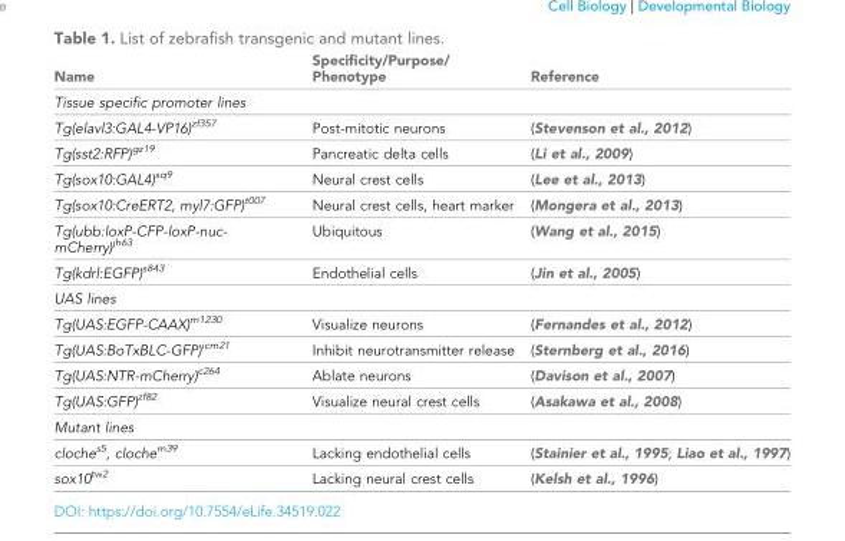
<table><thead><tr><td>Name</td><td>Specificity/Purpose/ Phenotype</td><td>Reference</td></tr></thead><tbody><tr><td colspan="3">Tissue specific promoter lines</td></tr><tr><td>Tg(elavl3:GAL4-VP16)<sup>zf357</sup></td><td>Post-mitotic neurons</td><td>(Stevenson et al., 2012)</td></tr><tr><td>Tg(sst2:RFP)<sup>gz19</sup></td><td>Pancreatic delta cells</td><td>(Li et al., 2009)</td></tr><tr><td>Tg(sox10:GAL4)<sup>sq9</sup></td><td>Neural crest cells</td><td>(Lee et al., 2013)</td></tr><tr><td>Tg(sox10:CreERT2, myl7:GFP)<sup>t007</sup></td><td>Neural crest cells, heart marker</td><td>(Mongera et al., 2013)</td></tr><tr><td>Tg(ubb:loxP-CFP-loxP-nuc- mCherry)<sup>jh63</sup></td><td>Ubiquitous</td><td>(Wang et al., 2015)</td></tr><tr><td>Tg(kdrl:EGFP)<sup>s843</sup></td><td>Endothelial cells</td><td>(Jin et al., 2005)</td></tr><tr><td colspan="3">UAS lines</td></tr><tr><td>Tg(UAS:EGFP-CAAX)<sup>m1230</sup></td><td>Visualize neurons</td><td>(Fernandes et al., 2012)</td></tr><tr><td>Tg(UAS:BoTxBLC-GFP)<sup>icm21</sup></td><td>Inhibit neurotransmitter release</td><td>(Sternberg et al., 2016)</td></tr><tr><td>Tg(UAS:NTR-mCherry)<sup>c264</sup></td><td>Ablate neurons</td><td>(Davison et al., 2007)</td></tr><tr><td>Tg(UAS:GFP)<sup>zf82</sup></td><td>Visualize neural crest cells</td><td>(Asakawa et al., 2008)</td></tr><tr><td colspan="3">Mutant lines</td></tr><tr><td>cloche<sup>s5</sup>, cloche<sup>m39</sup></td><td>Lacking endothelial cells</td><td>(Stainier et al., 1995; Liao et al., 1997)</td></tr><tr><td>sox10<sup>tw2</sup></td><td>Lacking neural crest cells</td><td>(Kelsh et al., 1996)</td></tr></tbody></table>